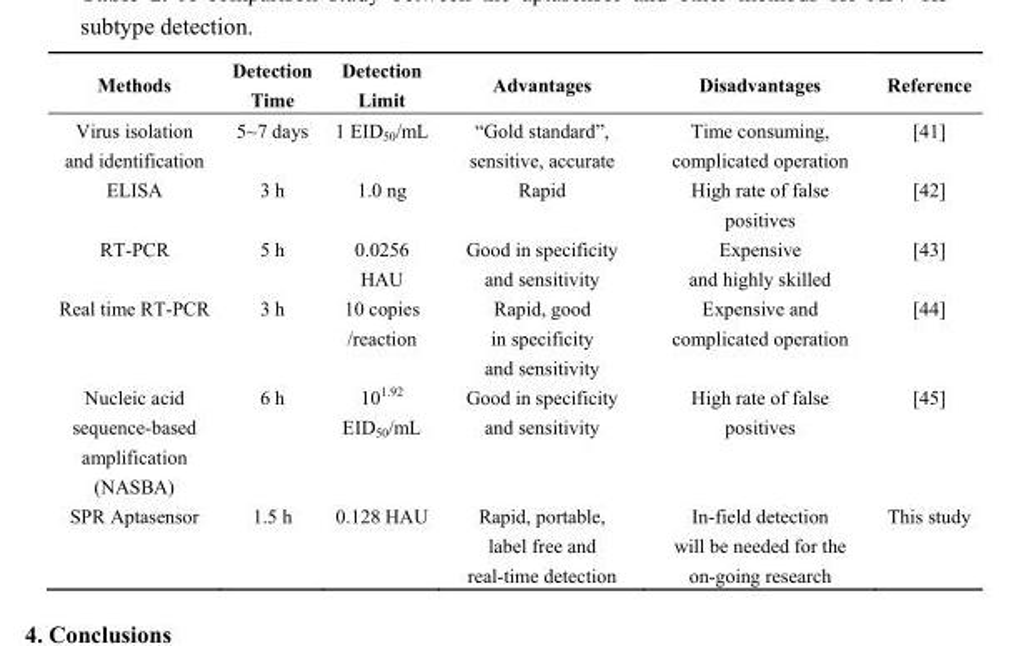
<table><thead><tr><td>Methods</td><td>Detection Time</td><td>Detection Limit</td><td>Advantages</td><td>Disadvantages</td><td>Reference</td></tr></thead><tbody><tr><td>Virus isolation and identification</td><td>5~7 days</td><td>1 EID<sub>50</sub>/mL</td><td>“Gold standard”, sensitive, accurate</td><td>Time consuming, complicated operation</td><td>[41]</td></tr><tr><td>ELISA</td><td>3 h</td><td>1.0 ng</td><td>Rapid</td><td>High rate of false positives</td><td>[42]</td></tr><tr><td>RT-PCR</td><td>5 h</td><td>0.0256 HAU</td><td>Good in specificity and sensitivity</td><td>Expensive and highly skilled</td><td>[43]</td></tr><tr><td>Real time RT-PCR</td><td>3 h</td><td>10 copies /reaction</td><td>Rapid, good in specificity and sensitivity</td><td>Expensive and complicated operation</td><td>[44]</td></tr><tr><td>Nucleic acid sequence-based amplification (NASBA)</td><td>6 h</td><td>10<sup>1.92</sup> EID<sub>50</sub>/mL</td><td>Good in specificity and sensitivity</td><td>High rate of false positives</td><td>[45]</td></tr><tr><td>SPR Aptasensor</td><td>1.5 h</td><td>0.128 HAU</td><td>Rapid, portable, label free and real-time detection</td><td>In-field detection will be needed for the on-going research</td><td>This study</td></tr></tbody></table>